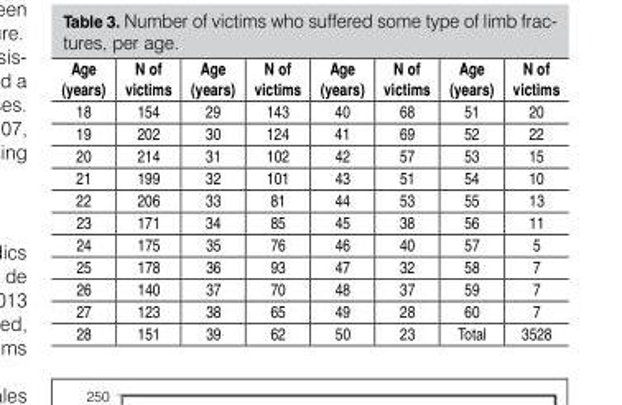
<table><thead><tr><td>Age (years)</td><td>N of victims</td><td>Age (years)</td><td>N of victims</td><td>Age (years)</td><td>N of victims</td><td>Age (years)</td><td>N of victims</td></tr></thead><tbody><tr><td>18</td><td>154</td><td>29</td><td>143</td><td>40</td><td>68</td><td>51</td><td>20</td></tr><tr><td>19</td><td>202</td><td>30</td><td>124</td><td>41</td><td>69</td><td>52</td><td>22</td></tr><tr><td>20</td><td>214</td><td>31</td><td>102</td><td>42</td><td>57</td><td>53</td><td>15</td></tr><tr><td>21</td><td>199</td><td>32</td><td>101</td><td>43</td><td>51</td><td>54</td><td>10</td></tr><tr><td>22</td><td>206</td><td>33</td><td>81</td><td>44</td><td>53</td><td>55</td><td>13</td></tr><tr><td>23</td><td>171</td><td>34</td><td>85</td><td>45</td><td>38</td><td>56</td><td>11</td></tr><tr><td>24</td><td>175</td><td>35</td><td>76</td><td>46</td><td>40</td><td>57</td><td>5</td></tr><tr><td>25</td><td>178</td><td>36</td><td>93</td><td>47</td><td>32</td><td>58</td><td>7</td></tr><tr><td>26</td><td>140</td><td>37</td><td>70</td><td>48</td><td>37</td><td>59</td><td>7</td></tr><tr><td>27</td><td>123</td><td>38</td><td>65</td><td>49</td><td>28</td><td>60</td><td>7</td></tr><tr><td>28</td><td>151</td><td>39</td><td>62</td><td>50</td><td>23</td><td>Total</td><td>3528</td></tr></tbody></table>